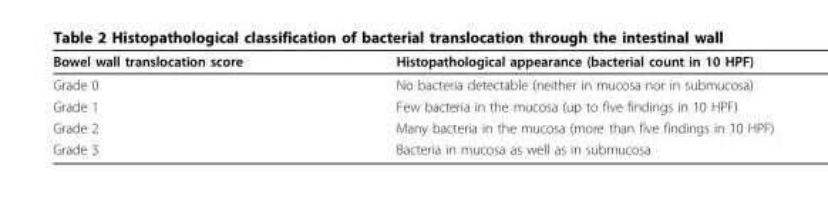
<table><thead><tr><td>Bowel wall translocation score</td><td>Histopathological appearance (bacterial count in 10 HPF)</td></tr></thead><tbody><tr><td>Grade 0</td><td>No bacteria detectable (neither in mucosa nor in submucosa)</td></tr><tr><td>Grade 1</td><td>Few bacteria in the mucosa (up to five findings in 10 HPF)</td></tr><tr><td>Grade 2</td><td>Many bacteria in the mucosa (more than five findings in 10 HPF)</td></tr><tr><td>Grade 3</td><td>Bacteria in mucosa as well as in submucosa</td></tr></tbody></table>